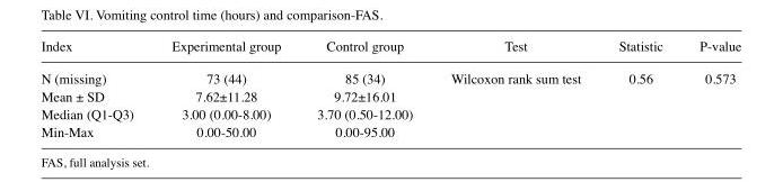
<table><thead><tr><td>Index</td><td>Experimental group</td><td>Control group</td><td>Test</td><td>Statistic</td><td>P-value</td></tr></thead><tbody><tr><td>N (missing)</td><td>73 (44)</td><td>85 (34)</td><td>Wilcoxon rank sum test</td><td>0.56</td><td>0.573</td></tr><tr><td>Mean ± SD</td><td>7.62±11.28</td><td>9.72±16.01</td><td></td><td></td><td></td></tr><tr><td>Median (Q1-Q3)</td><td>3.00 (0.00-8.00)</td><td>3.70 (0.50-12.00)</td><td></td><td></td><td></td></tr><tr><td>Min-Max</td><td>0.00-50.00</td><td>0.00-95.00</td><td></td><td></td><td></td></tr></tbody></table>